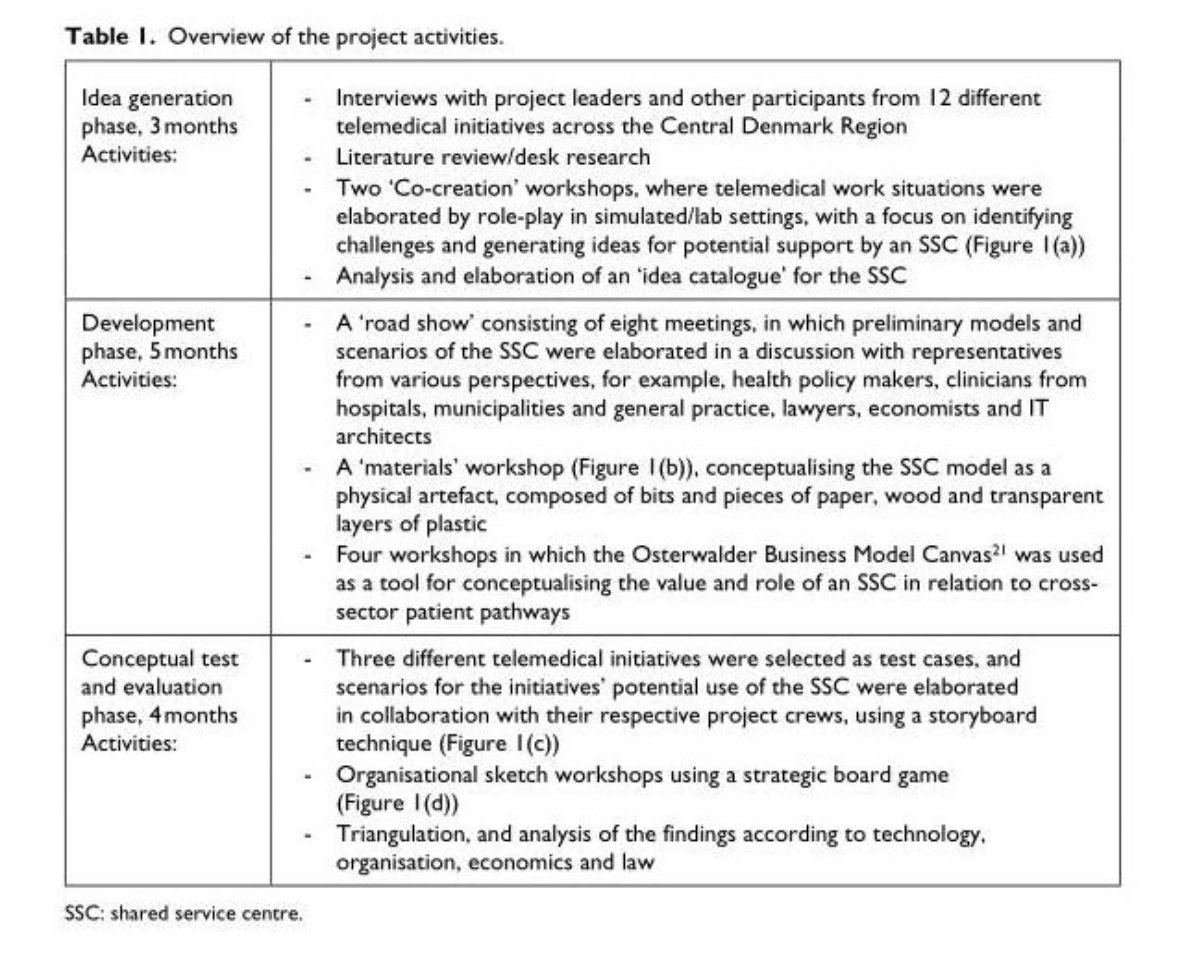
<table><tbody><tr><td rowspan="4">Idea generation phase, 3 months Activities:</td><td>-- Interviews with project leaders and other participants from 12 different telemedical initiatives across the Central Denmark Region</td></tr><tr><td>-- Literature review/desk research</td></tr><tr><td>-- Two ‘Co-creation’ workshops, where telemedical work situations were elaborated by role-play in simulated/lab settings, with a focus on identifying challenges and generating ideas for potential support by an SSC (Figure 1(a))</td></tr><tr><td>-- Analysis and elaboration of an ‘idea catalogue’ for the SSC</td></tr><tr><td rowspan="3">Development phase, 5 months Activities:</td><td>-- A ‘road show’ consisting of eight meetings, in which preliminary models and scenarios of the SSC were elaborated in a discussion with representatives from various perspectives, for example, health policy makers, clinicians from hospitals, municipalities and general practice, lawyers, economists and IT architects</td></tr><tr><td>-- A ‘materials’ workshop (Figure 1(b)), conceptualising the SSC model as a physical artefact, composed of bits and pieces of paper, wood and transparent layers of plastic</td></tr><tr><td>-- Four workshops in which the Osterwalder Business Model Canvas21 was used as a tool for conceptualising the value and role of an SSC in relation to cross- sector patient pathways</td></tr><tr><td rowspan="3">Conceptual test and evaluation phase, 4 months Activities:</td><td>-- Three different telemedical initiatives were selected as test cases, and scenarios for the initiatives’ potential use of the SSC were elaborated in collaboration with their respective project crews, using a storyboard technique (Figure 1(c))</td></tr><tr><td>-- Organisational sketch workshops using a strategic board game (Figure 1(d))</td></tr><tr><td>-- Triangulation, and analysis of the findings according to technology, organisation, economics and law</td></tr></tbody></table>